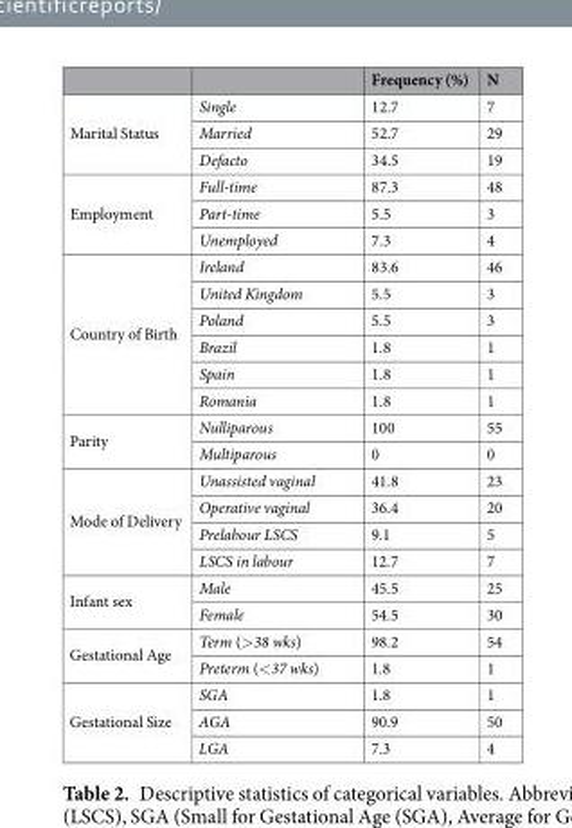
<table><thead><tr><td></td><td></td><td>Frequency (%)</td><td>N</td></tr></thead><tbody><tr><td rowspan="3">Marital Status</td><td>Single</td><td>12.7</td><td>7</td></tr><tr><td>Married</td><td>52.7</td><td>29</td></tr><tr><td>Defacto</td><td>34.5</td><td>19</td></tr><tr><td rowspan="3">Employment</td><td>Full-time</td><td>87.3</td><td>48</td></tr><tr><td>Part-time</td><td>5.5</td><td>3</td></tr><tr><td>Unemployed</td><td>7.3</td><td>4</td></tr><tr><td rowspan="6">Country of Birth</td><td>Ireland</td><td>83.6</td><td>46</td></tr><tr><td>United Kingdom</td><td>5.5</td><td>3</td></tr><tr><td>Poland</td><td>5.5</td><td>3</td></tr><tr><td>Brazil</td><td>1.8</td><td>1</td></tr><tr><td>Spain</td><td>1.8</td><td>1</td></tr><tr><td>Romania</td><td>1.8</td><td>1</td></tr><tr><td rowspan="2">Parity</td><td>Nulliparous</td><td>100</td><td>55</td></tr><tr><td>Multiparous</td><td>0</td><td>0</td></tr><tr><td rowspan="4">Mode of Delivery</td><td>Unassisted vaginal</td><td>41.8</td><td>23</td></tr><tr><td>Operative vaginal</td><td>36.4</td><td>20</td></tr><tr><td>Prelabour LSCS</td><td>9.1</td><td>5</td></tr><tr><td>LSCS in labour</td><td>12.7</td><td>7</td></tr><tr><td rowspan="2">Infant sex</td><td>Male</td><td>45.5</td><td>25</td></tr><tr><td>Female</td><td>54.5</td><td>30</td></tr><tr><td rowspan="2">Gestational Age</td><td>Term (&gt;38 wks)</td><td>98.2</td><td>54</td></tr><tr><td>Preterm (&lt;37 wks)</td><td>1.8</td><td>1</td></tr><tr><td rowspan="3">Gestational Size</td><td>SGA</td><td>1.8</td><td>1</td></tr><tr><td>AGA</td><td>90.9</td><td>50</td></tr><tr><td>LGA</td><td>7.3</td><td>4</td></tr></tbody></table>